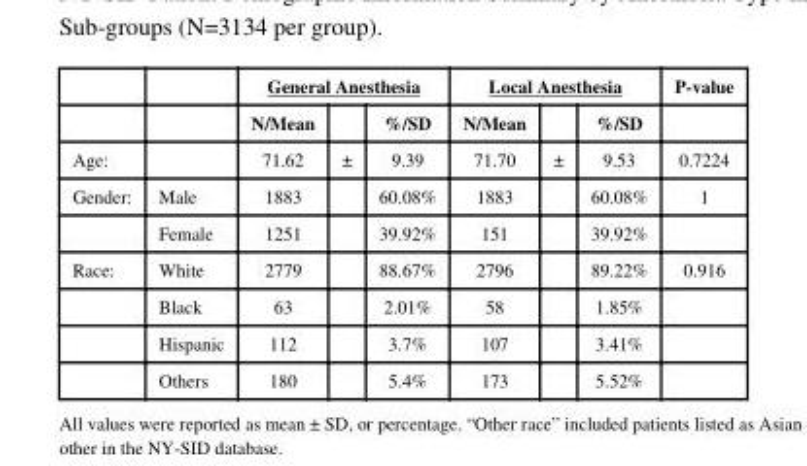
<table><thead><tr><td rowspan="2"></td><td rowspan="2"></td><td colspan="3">General Anesthesia</td><td colspan="3">Local Anesthesia</td><td rowspan="2">P-value</td></tr><tr><td>N/Mean</td><td></td><td>%/SD</td><td>N/Mean</td><td></td><td>%/SD</td></tr></thead><tbody><tr><td>Age:</td><td></td><td>71.62</td><td>±</td><td>9.39</td><td>71.70</td><td>±</td><td>9.53</td><td>0.7224</td></tr><tr><td rowspan="2">Gender:</td><td>Male</td><td>1883</td><td></td><td>60.08%</td><td>1883</td><td></td><td>60.08%</td><td>1</td></tr><tr><td>Female</td><td>1251</td><td></td><td>39.92%</td><td>151</td><td></td><td>39.92%</td><td></td></tr><tr><td rowspan="4">Race:</td><td>White</td><td>2779</td><td></td><td>88.67%</td><td>2796</td><td></td><td>89.22%</td><td>0.916</td></tr><tr><td>Black</td><td>63</td><td></td><td>2.01%</td><td>58</td><td></td><td>1.85%</td><td></td></tr><tr><td>Hispanic</td><td>112</td><td></td><td>3.7%</td><td>107</td><td></td><td>3.41%</td><td></td></tr><tr><td>Others</td><td>180</td><td></td><td>5.4%</td><td>173</td><td></td><td>5.52%</td><td></td></tr></tbody></table>